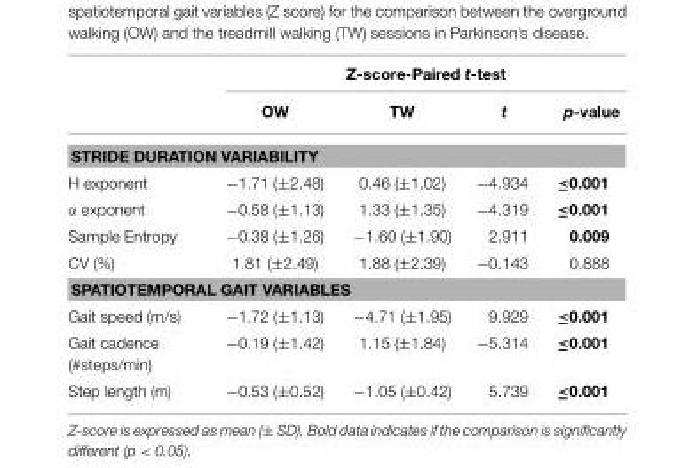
<table><thead><tr><td rowspan="2"></td><td colspan="4">Z-score-Paired t-test</td></tr><tr><td>OW</td><td>TW</td><td>t</td><td>p-value</td></tr></thead><tbody><tr><td colspan="5">STRIDE DURATION VARIABILITY</td></tr><tr><td>H exponent</td><td>−1.71 (±2.48)</td><td>0.46 (±1.02)</td><td>−4.934</td><td>≤0.001</td></tr><tr><td>α exponent</td><td>−0.58 (±1.13)</td><td>1.33 (±1.35)</td><td>−4.319</td><td>≤0.001</td></tr><tr><td>Sample Entropy</td><td>−0.38 (±1.26)</td><td>−1.60 (±1.90)</td><td>2.911</td><td>0.009</td></tr><tr><td>CV (%)</td><td>1.81 (±2.49)</td><td>1.88 (±2.39)</td><td>−0.143</td><td>0.888</td></tr><tr><td colspan="5">SPATIOTEMPORAL GAIT VARIABLES</td></tr><tr><td>Gait speed (m/s)</td><td>−1.72 (±1.13)</td><td>−4.71 (±1.95)</td><td>9.929</td><td>≤0.001</td></tr><tr><td>Gait cadence (#steps/min)</td><td>−0.19 (±1.42)</td><td>1.15 (±1.84)</td><td>−5.314</td><td>≤0.001</td></tr><tr><td>Step length (m)</td><td>−0.53 (±0.52)</td><td>−1.05 (±0.42)</td><td>5.739</td><td>≤0.001</td></tr></tbody></table>